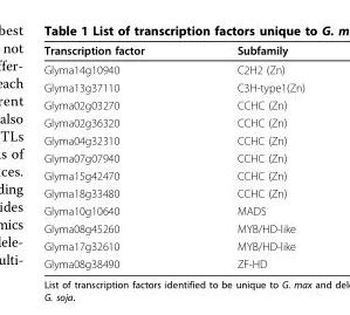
<table><thead><tr><td>Transcription factor</td><td>Subfamily</td></tr></thead><tbody><tr><td>Glyma14g10940</td><td>C2H2 (Zn)</td></tr><tr><td>Glyma13g37110</td><td>C3H-type1(Zn)</td></tr><tr><td>Glyma02g03270</td><td>CCHC (Zn)</td></tr><tr><td>Glyma02g36320</td><td>CCHC (Zn)</td></tr><tr><td>Glyma04g32310</td><td>CCHC (Zn)</td></tr><tr><td>Glyma07g07940</td><td>CCHC (Zn)</td></tr><tr><td>Glyma15g42470</td><td>CCHC (Zn)</td></tr><tr><td>Glyma18g33480</td><td>CCHC (Zn)</td></tr><tr><td>Glyma10g10640</td><td>MADS</td></tr><tr><td>Glyma08g45260</td><td>MYB/HD-like</td></tr><tr><td>Glyma17g32610</td><td>MYB/HD-like</td></tr><tr><td>Glyma08g38490</td><td>ZF-HD</td></tr></tbody></table>